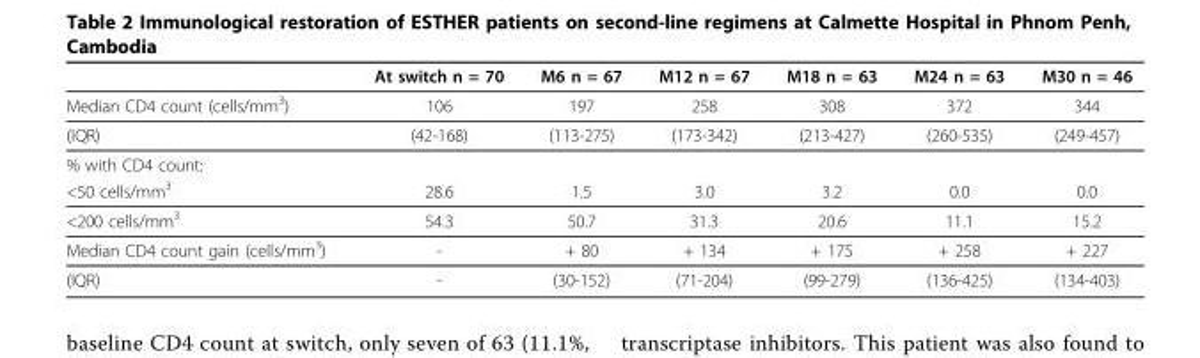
<table><thead><tr><td></td><td>At switch n = 70</td><td>M6 n = 67</td><td>M12 n = 67</td><td>M18 n = 63</td><td>M24 n = 63</td><td>M30 n = 46</td></tr></thead><tbody><tr><td>Median CD4 count (cells/mm<sup>3</sup>)</td><td>106</td><td>197</td><td>258</td><td>308</td><td>372</td><td>344</td></tr><tr><td>(IQR)</td><td>(42-168)</td><td>(113-275)</td><td>(173-342)</td><td>(213-427)</td><td>(260-535)</td><td>(249-457)</td></tr><tr><td colspan="7">% with CD4 count:</td></tr><tr><td>&lt;50 cells/mm<sup>3</sup></td><td>28.6</td><td>1.5</td><td>3.0</td><td>3.2</td><td>0.0</td><td>0.0</td></tr><tr><td>&lt;200 cells/mm<sup>3</sup></td><td>54.3</td><td>50.7</td><td>31.3</td><td>20.6</td><td>11.1</td><td>15.2</td></tr><tr><td>Median CD4 count gain (cells/mm<sup>3</sup>)</td><td>-</td><td>+ 80</td><td>+ 134</td><td>+ 175</td><td>+ 258</td><td>+ 227</td></tr><tr><td>(IQR)</td><td>-</td><td>(30-152)</td><td>(71-204)</td><td>(99-279)</td><td>(136-425)</td><td>(134-403)</td></tr></tbody></table>